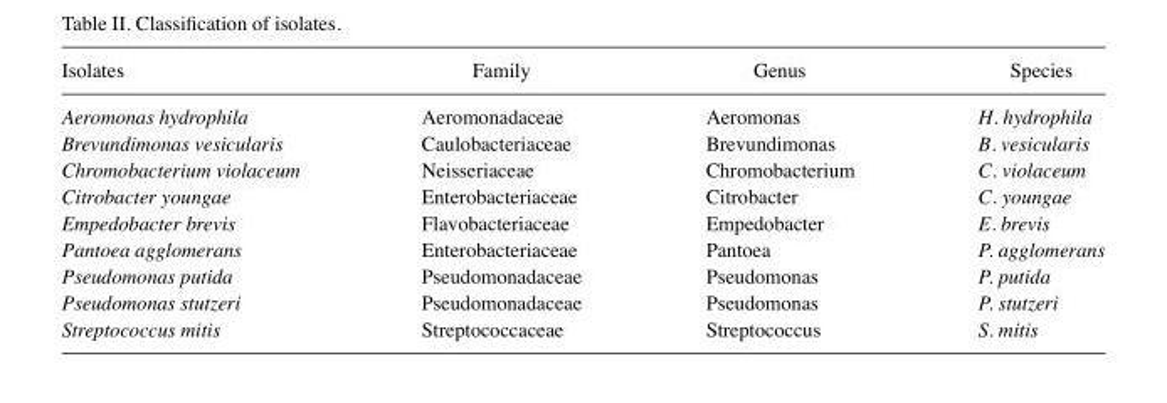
<table><thead><tr><td>Isolates</td><td>Family</td><td>Genus</td><td>Species</td></tr></thead><tbody><tr><td>Aeromonas hydrophila</td><td>Aeromonadaceae</td><td>Aeromonas</td><td>H. hydrophila</td></tr><tr><td>Brevundimonas vesicularis</td><td>Caulobacteriaceae</td><td>Brevundimonas</td><td>B. vesicularis</td></tr><tr><td>Chromobacterium violaceum</td><td>Neisseriaceae</td><td>Chromobacterium</td><td>C. violaceum</td></tr><tr><td>Citrobacter youngae</td><td>Enterobacteriaceae</td><td>Citrobacter</td><td>C. youngae</td></tr><tr><td>Empedobacter brevis</td><td>Flavobacteriaceae</td><td>Empedobacter</td><td>E. brevis</td></tr><tr><td>Pantoea agglomerans</td><td>Enterobacteriaceae</td><td>Pantoea</td><td>P. agglomerans</td></tr><tr><td>Pseudomonas putida</td><td>Pseudomonadaceae</td><td>Pseudomonas</td><td>P. putida</td></tr><tr><td>Pseudomonas stutzeri</td><td>Pseudomonadaceae</td><td>Pseudomonas</td><td>P. stutzeri</td></tr><tr><td>Streptococcus mitis</td><td>Streptococcaceae</td><td>Streptococcus</td><td>S. mitis</td></tr></tbody></table>